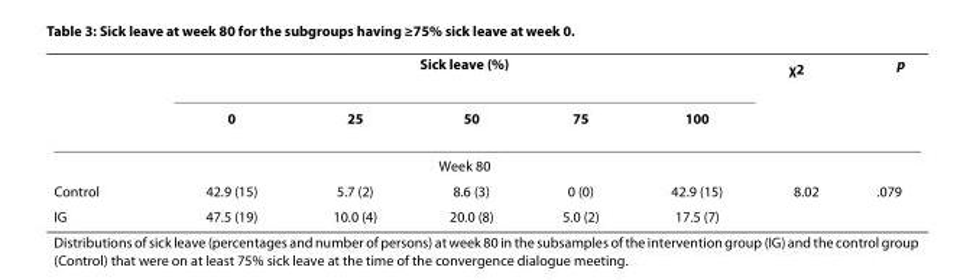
<table><thead><tr><td rowspan="2"></td><td colspan="5">Sick leave (%)</td><td rowspan="2">χ<sup>2</sup></td><td rowspan="2">p</td></tr><tr><td>0</td><td>25</td><td>50</td><td>75</td><td>100</td></tr></thead><tbody><tr><td></td><td colspan="5">Week 80</td><td></td><td></td></tr><tr><td>Control</td><td>42.9 (15)</td><td>5.7 (2)</td><td>8.6 (3)</td><td>0 (0)</td><td>42.9 (15)</td><td>8.02</td><td>.079</td></tr><tr><td>IG</td><td>47.5 (19)</td><td>10.0 (4)</td><td>20.0 (8)</td><td>5.0 (2)</td><td>17.5 (7)</td><td></td><td></td></tr></tbody></table>